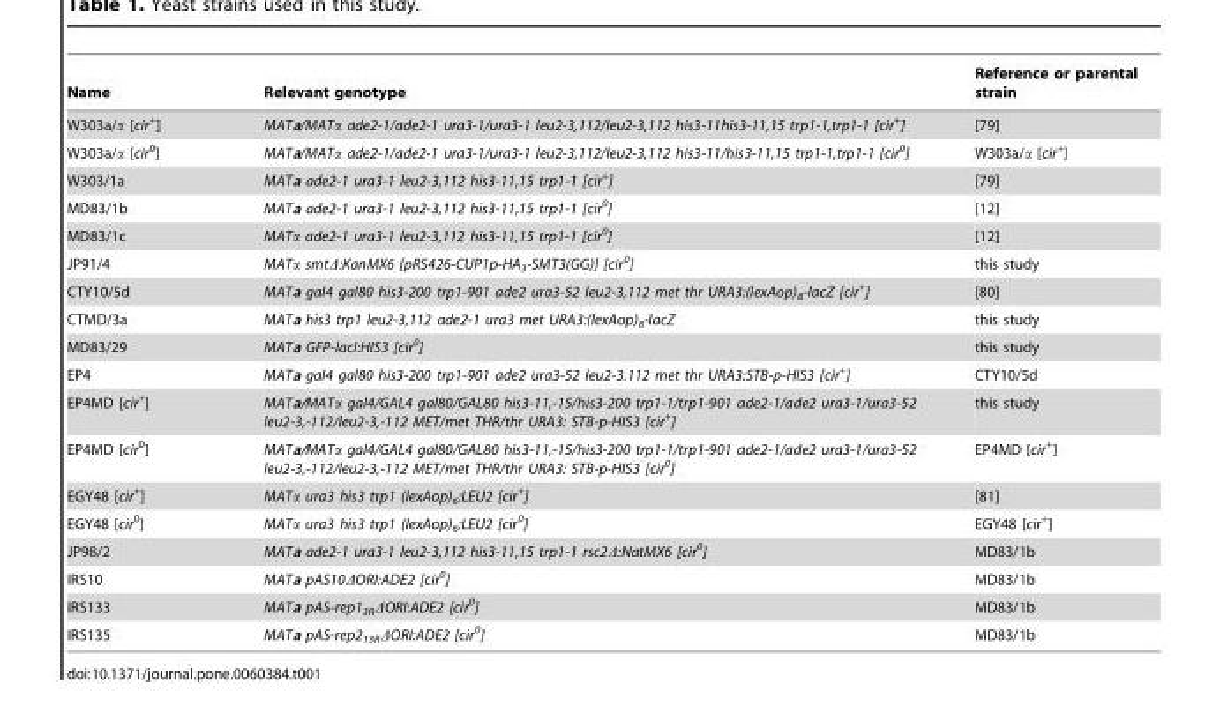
<table><thead><tr><td>Name</td><td>Relevant genotype</td><td>Reference or parental strain</td></tr></thead><tbody><tr><td>W303a/α [cir<sup>+</sup>]</td><td>MATa/MATα ade2-1/ade2-1 ura3-1/ura3-1 leu2-3,112/leu2-3,112 his3-11his3-11,15 trp1-1,trp1-1 [cir<sup>+</sup>]</td><td>[79]</td></tr><tr><td>W303a/α [cir<sup>0</sup>]</td><td>MATa/MATα ade2-1/ade2-1 ura3-1/ura3-1 leu2-3,112/leu2-3,112 his3-11/his3-11,15 trp1-1,trp1-1 [cir<sup>0</sup>]</td><td>W303a/α [cir<sup>+</sup>]</td></tr><tr><td>W303/1a</td><td>MATa ade2-1 ura3-1 leu2-3,112 his3-11,15 trp1-1 [cir<sup>+</sup>]</td><td>[79]</td></tr><tr><td>MD83/1b</td><td>MATa ade2-1 ura3-1 leu2-3,112 his3-11,15 trp1-1 [cir<sup>0</sup>]</td><td>[12]</td></tr><tr><td>MD83/1c</td><td>MATα ade2-1 ura3-1 leu2-3,112 his3-11,15 trp1-1 [cir<sup>0</sup>]</td><td>[12]</td></tr><tr><td>JP91/4</td><td>MATα smtΔ:KanMX6 [pRS426-CUP1p-HA<sub>3</sub>-SMT3(GG)] [cir<sup>0</sup>]</td><td>this study</td></tr><tr><td>CTY10/5d</td><td>MATa gal4 gal80 his3-200 trp1-901 ade2 ura3-52 leu2-3,112 met thr URA3:(lexAop)<sub>8</sub>-lacZ [cir<sup>+</sup>]</td><td>[80]</td></tr><tr><td>CTMD/3a</td><td>MATa his3 trp1 leu2-3,112 ade2-1 ura3 met URA3:(lexAop)<sub>8</sub>-lacZ</td><td>this study</td></tr><tr><td>MD83/29</td><td>MATa GFP-lacI:HIS3 [cir<sup>0</sup>]</td><td>this study</td></tr><tr><td>EP4</td><td>MATa gal4 gal80 his3-200 trp1-901 ade2 ura3-52 leu2-3.112 met thr URA3:STB-p-HIS3 [cir<sup>+</sup>]</td><td>CTY10/5d</td></tr><tr><td>EP4MD [cir<sup>+</sup>]</td><td>MATa/MATα gal4/GAL4 gal80/GAL80 his3-11,-15/his3-200 trp1-1/trp1-901 ade2-1/ade2 ura3-1/ura3-52 leu2-3,-112/leu2-3,-112 MET/met THR/thr URA3: STB-p-HIS3 [cir<sup>+</sup>]</td><td>this study</td></tr><tr><td>EP4MD [cir<sup>0</sup>]</td><td>MATa/MATα gal4/GAL4 gal80/GAL80 his3-11,-15/his3-200 trp1-1/trp1-901 ade2-1/ade2 ura3-1/ura3-52 leu2-3,-112/leu2-3,-112 MET/met THR/thr URA3: STB-p-HIS3 [cir<sup>0</sup>]</td><td>EP4MD [cir<sup>+</sup>]</td></tr><tr><td>EGY48 [cir<sup>+</sup>]</td><td>MATα ura3 his3 trp1 (lexAop)<sub>6</sub>:LEU2 [cir<sup>+</sup>]</td><td>[81]</td></tr><tr><td>EGY48 [cir<sup>0</sup>]</td><td>MATα ura3 his3 trp1 (lexAop)<sub>6</sub>:LEU2 [cir<sup>0</sup>]</td><td>EGY48 [cir<sup>+</sup>]</td></tr><tr><td>JP98/2</td><td>MATa ade2-1 ura3-1 leu2-3,112 his3-11,15 trp1-1 rsc2Δ:NatMX6 [cir<sup>0</sup>]</td><td>MD83/1b</td></tr><tr><td>IRS10</td><td>MATa pAS10ΔORI:ADE2 [cir<sup>0</sup>]</td><td>MD83/1b</td></tr><tr><td>IRS133</td><td>MATa pAS-rep1<sub>3R</sub>ΔORI:ADE2 [cir<sup>0</sup>]</td><td>MD83/1b</td></tr><tr><td>IRS135</td><td>MATa pAS-rep2<sub>13R</sub>ΔORI:ADE2 [cir<sup>0</sup>]</td><td>MD83/1b</td></tr></tbody></table>